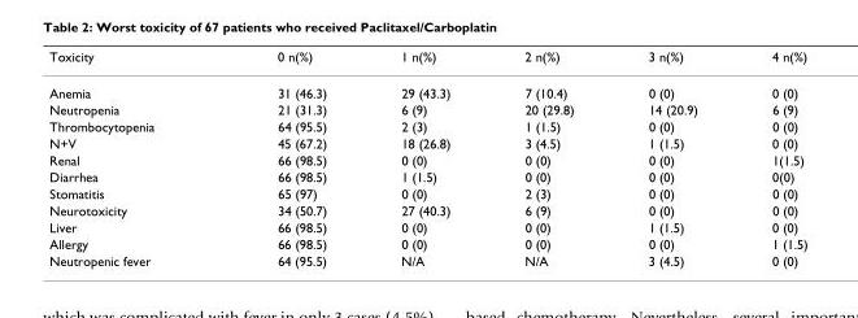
<table><thead><tr><td>Toxicity</td><td>0 n(%)</td><td>1 n(%)</td><td>2 n(%)</td><td>3 n(%)</td><td>4 n(%)</td></tr></thead><tbody><tr><td>Anemia</td><td>31 (46.3)</td><td>29 (43.3)</td><td>7 (10.4)</td><td>0 (0)</td><td>0 (0)</td></tr><tr><td>Neutropenia</td><td>21 (31.3)</td><td>6 (9)</td><td>20 (29.8)</td><td>14 (20.9)</td><td>6 (9)</td></tr><tr><td>Thrombocytopenia</td><td>64 (95.5)</td><td>2 (3)</td><td>1 (1.5)</td><td>0 (0)</td><td>0 (0)</td></tr><tr><td>N+V</td><td>45 (67.2)</td><td>18 (26.8)</td><td>3 (4.5)</td><td>1 (1.5)</td><td>0 (0)</td></tr><tr><td>Renal</td><td>66 (98.5)</td><td>0 (0)</td><td>0 (0)</td><td>0 (0)</td><td>1(1.5)</td></tr><tr><td>Diarrhea</td><td>66 (98.5)</td><td>1 (1.5)</td><td>0 (0)</td><td>0 (0)</td><td>0(0)</td></tr><tr><td>Stomatitis</td><td>65 (97)</td><td>0 (0)</td><td>2 (3)</td><td>0 (0)</td><td>0 (0)</td></tr><tr><td>Neurotoxicity</td><td>34 (50.7)</td><td>27 (40.3)</td><td>6 (9)</td><td>0 (0)</td><td>0 (0)</td></tr><tr><td>Liver</td><td>66 (98.5)</td><td>0 (0)</td><td>0 (0)</td><td>1 (1.5)</td><td>0 (0)</td></tr><tr><td>Allergy</td><td>66 (98.5)</td><td>0 (0)</td><td>0 (0)</td><td>0 (0)</td><td>1 (1.5)</td></tr><tr><td>Neutropenic fever</td><td>64 (95.5)</td><td>N/A</td><td>N/A</td><td>3 (4.5)</td><td>0 (0)</td></tr></tbody></table>